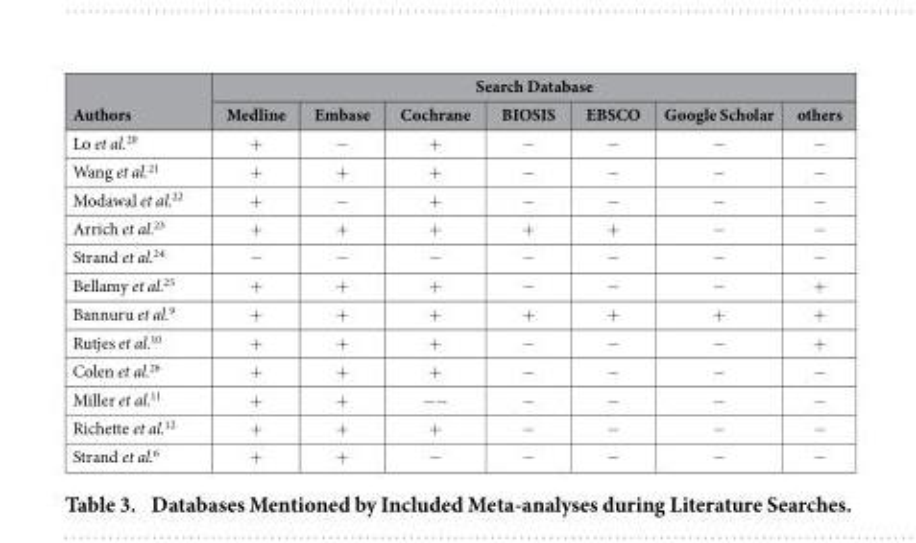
<table><thead><tr><td rowspan="2">Authors</td><td colspan="7">Search Database</td></tr><tr><td>Medline</td><td>Embase</td><td>Cochrane</td><td>BIOSIS</td><td>EBSCO</td><td>Google Scholar</td><td>others</td></tr></thead><tbody><tr><td>Lo et al.<sup>20</sup></td><td>+</td><td>−</td><td>+</td><td>−</td><td>−</td><td>−</td><td>−</td></tr><tr><td>Wang et al.<sup>21</sup></td><td>+</td><td>+</td><td>+</td><td>−</td><td>−</td><td>−</td><td>−</td></tr><tr><td>Modawal et al.<sup>22</sup></td><td>+</td><td>−</td><td>+</td><td>−</td><td>−</td><td>−</td><td>−</td></tr><tr><td>Arrich et al.<sup>23</sup></td><td>+</td><td>+</td><td>+</td><td>+</td><td>+</td><td>−</td><td>−</td></tr><tr><td>Strand et al.<sup>24</sup></td><td>−</td><td>−</td><td>−</td><td>−</td><td>−</td><td>−</td><td>−</td></tr><tr><td>Bellamy et al.<sup>25</sup></td><td>+</td><td>+</td><td>+</td><td>−</td><td>−</td><td>−</td><td>+</td></tr><tr><td>Bannuru et al.<sup>9</sup></td><td>+</td><td>+</td><td>+</td><td>+</td><td>+</td><td>+</td><td>+</td></tr><tr><td>Rutjes et al.<sup>10</sup></td><td>+</td><td>+</td><td>+</td><td>−</td><td>−</td><td>−</td><td>+</td></tr><tr><td>Colen et al.<sup>26</sup></td><td>+</td><td>+</td><td>+</td><td>−</td><td>−</td><td>−</td><td>−</td></tr><tr><td>Miller et al.<sup>11</sup></td><td>+</td><td>+</td><td>−−</td><td>−</td><td>−</td><td>−</td><td>−</td></tr><tr><td>Richette et al.<sup>12</sup></td><td>+</td><td>+</td><td>+</td><td>−</td><td>−</td><td>−</td><td>−</td></tr><tr><td>Strand et al.<sup>6</sup></td><td>+</td><td>+</td><td>−</td><td>−</td><td>−</td><td>−</td><td>−</td></tr></tbody></table>